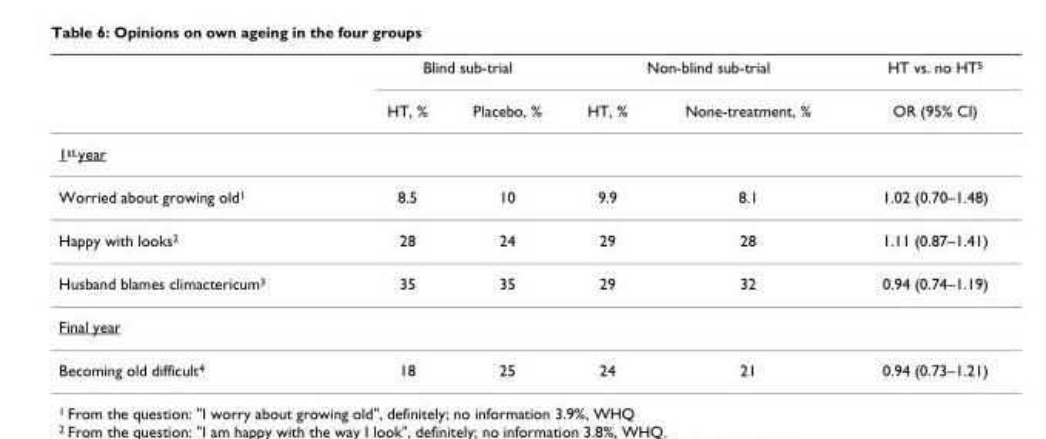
<table><thead><tr><td rowspan="2"></td><td colspan="2">Blind sub-trial</td><td colspan="2">Non-blind sub-trial</td><td rowspan="2">HT vs. no HT5 OR (95% CI)</td></tr><tr><td>HT, %</td><td>Placebo, %</td><td>HT, %</td><td>None-treatment, %</td></tr></thead><tbody><tr><td colspan="6">1st year</td></tr><tr><td>Worried about growing old1</td><td>8.5</td><td>10</td><td>9.9</td><td>8.1</td><td>1.02 (0.70–1.48)</td></tr><tr><td>Happy with looks2</td><td>28</td><td>24</td><td>29</td><td>28</td><td>1.11 (0.87–1.41)</td></tr><tr><td>Husband blames climactericum3</td><td>35</td><td>35</td><td>29</td><td>32</td><td>0.94 (0.74–1.19)</td></tr><tr><td colspan="6">Final year</td></tr><tr><td>Becoming old difficult4</td><td>18</td><td>25</td><td>24</td><td>21</td><td>0.94 (0.73–1.21)</td></tr></tbody></table>